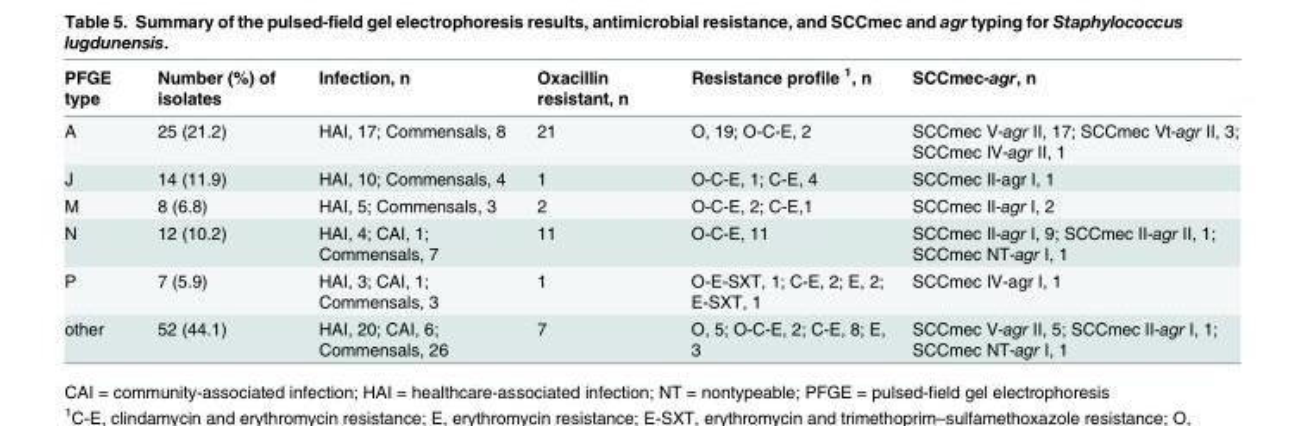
<table><thead><tr><td>PFGE type</td><td>Number (%) of isolates</td><td>Infection, n</td><td>Oxacillin resistant, n</td><td>Resistance profile <sup>1</sup>, n</td><td>SCCmec-agr, n</td></tr></thead><tbody><tr><td>A</td><td>25 (21.2)</td><td>HAI, 17; Commensals, 8</td><td>21</td><td>O, 19; O-C-E, 2</td><td>SCCmec V-agr II, 17; SCCmec Vt-agr II, 3; SCCmec IV-agr II, 1</td></tr><tr><td>J</td><td>14 (11.9)</td><td>HAI, 10; Commensals, 4</td><td>1</td><td>O-C-E, 1; C-E, 4</td><td>SCCmec II-agr I, 1</td></tr><tr><td>M</td><td>8 (6.8)</td><td>HAI, 5; Commensals, 3</td><td>2</td><td>O-C-E, 2; C-E,1</td><td>SCCmec II-agr I, 2</td></tr><tr><td>N</td><td>12 (10.2)</td><td>HAI, 4; CAI, 1; Commensals, 7</td><td>11</td><td>O-C-E, 11</td><td>SCCmec II-agr I, 9; SCCmec II-agr II, 1; SCCmec NT-agr I, 1</td></tr><tr><td>P</td><td>7 (5.9)</td><td>HAI, 3; CAI, 1; Commensals, 3</td><td>1</td><td>O-E-SXT, 1; C-E, 2; E, 2; E-SXT, 1</td><td>SCCmec IV-agr I, 1</td></tr><tr><td>other</td><td>52 (44.1)</td><td>HAI, 20; CAI, 6; Commensals, 26</td><td>7</td><td>O, 5; O-C-E, 2; C-E, 8; E, 3</td><td>SCCmec V-agr II, 5; SCCmec II-agr I, 1; SCCmec NT-agr I, 1</td></tr></tbody></table>